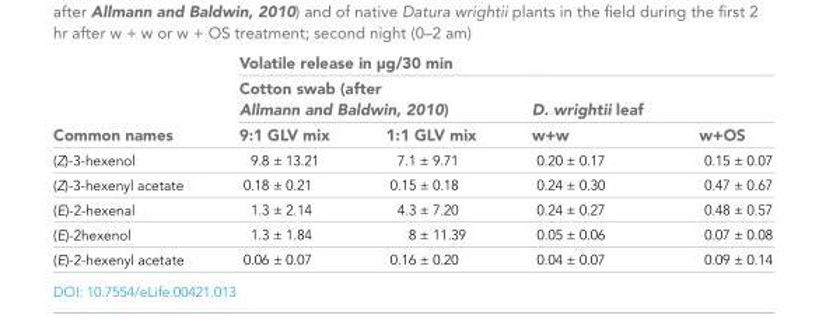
<table><thead><tr><td rowspan="3">Common names</td><td colspan="4">Volatile release in µg/30 min</td></tr><tr><td colspan="2">Cotton swab (after Allmann and Baldwin, 2010)</td><td colspan="2">D. wrightii leaf</td></tr><tr><td>9:1 GLV mix</td><td>1:1 GLV mix</td><td>w+w</td><td>w+OS</td></tr></thead><tbody><tr><td>(Z)-3-hexenol</td><td>9.8 ± 13.21</td><td>7.1 ± 9.71</td><td>0.20 ± 0.17</td><td>0.15 ± 0.07</td></tr><tr><td>(Z)-3-hexenyl acetate</td><td>0.18 ± 0.21</td><td>0.15 ± 0.18</td><td>0.24 ± 0.30</td><td>0.47 ± 0.67</td></tr><tr><td>(E)-2-hexenal</td><td>1.3 ± 2.14</td><td>4.3 ± 7.20</td><td>0.24 ± 0.27</td><td>0.48 ± 0.57</td></tr><tr><td>(E)-2hexenol</td><td>1.3 ± 1.84</td><td>8 ± 11.39</td><td>0.05 ± 0.06</td><td>0.07 ± 0.08</td></tr><tr><td>(E)-2-hexenyl acetate</td><td>0.06 ± 0.07</td><td>0.16 ± 0.20</td><td>0.04 ± 0.07</td><td>0.09 ± 0.14</td></tr></tbody></table>